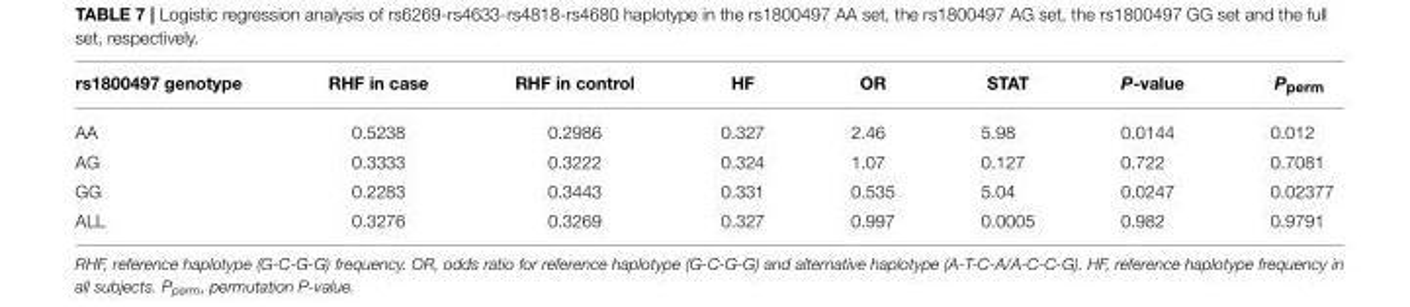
<table><thead><tr><td>rs1800497 genotype</td><td>RHF in case</td><td>RHF in control</td><td>HF</td><td>OR</td><td>STAT</td><td>P-value</td><td>P<sub>perm</sub></td></tr></thead><tbody><tr><td>AA</td><td>0.5238</td><td>0.2986</td><td>0.327</td><td>2.46</td><td>5.98</td><td>0.0144</td><td>0.012</td></tr><tr><td>AG</td><td>0.3333</td><td>0.3222</td><td>0.324</td><td>1.07</td><td>0.127</td><td>0.722</td><td>0.7081</td></tr><tr><td>GG</td><td>0.2283</td><td>0.3443</td><td>0.331</td><td>0.535</td><td>5.04</td><td>0.0247</td><td>0.02377</td></tr><tr><td>ALL</td><td>0.3276</td><td>0.3269</td><td>0.327</td><td>0.997</td><td>0.0005</td><td>0.982</td><td>0.9791</td></tr></tbody></table>